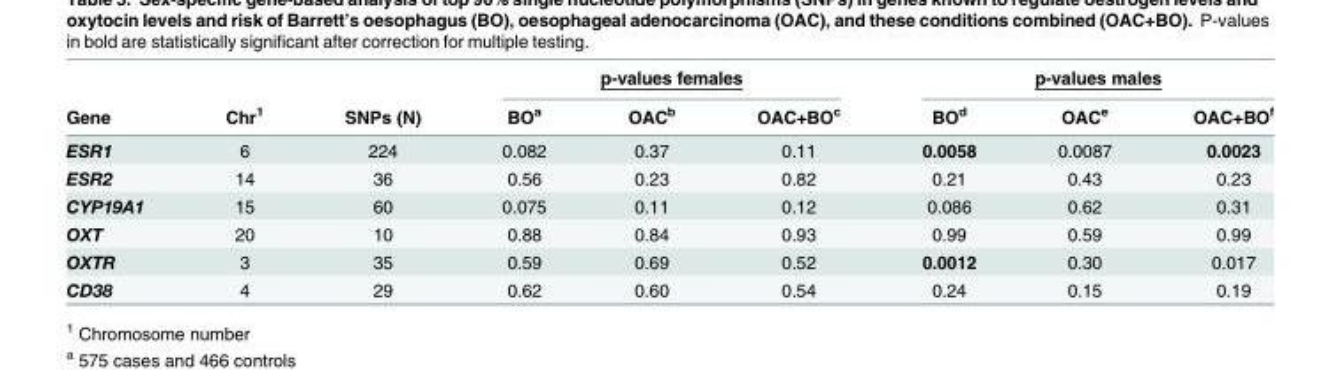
<table><thead><tr><td rowspan="2">Gene</td><td rowspan="2">Chr<sup>1</sup></td><td rowspan="2">SNPs (N)</td><td colspan="3">p-values females</td><td colspan="3">p-values males</td></tr><tr><td>BO<sup>a</sup></td><td>OAC<sup>b</sup></td><td>OAC+BO<sup>c</sup></td><td>BO<sup>d</sup></td><td>OAC<sup>e</sup></td><td>OAC+BO<sup>f</sup></td></tr></thead><tbody><tr><td>ESR1</td><td>6</td><td>224</td><td>0.082</td><td>0.37</td><td>0.11</td><td>0.0058</td><td>0.0087</td><td>0.0023</td></tr><tr><td>ESR2</td><td>14</td><td>36</td><td>0.56</td><td>0.23</td><td>0.82</td><td>0.21</td><td>0.43</td><td>0.23</td></tr><tr><td>CYP19A1</td><td>15</td><td>60</td><td>0.075</td><td>0.11</td><td>0.12</td><td>0.086</td><td>0.62</td><td>0.31</td></tr><tr><td>OXT</td><td>20</td><td>10</td><td>0.88</td><td>0.84</td><td>0.93</td><td>0.99</td><td>0.59</td><td>0.99</td></tr><tr><td>OXTR</td><td>3</td><td>35</td><td>0.59</td><td>0.69</td><td>0.52</td><td>0.0012</td><td>0.30</td><td>0.017</td></tr><tr><td>CD38</td><td>4</td><td>29</td><td>0.62</td><td>0.60</td><td>0.54</td><td>0.24</td><td>0.15</td><td>0.19</td></tr></tbody></table>